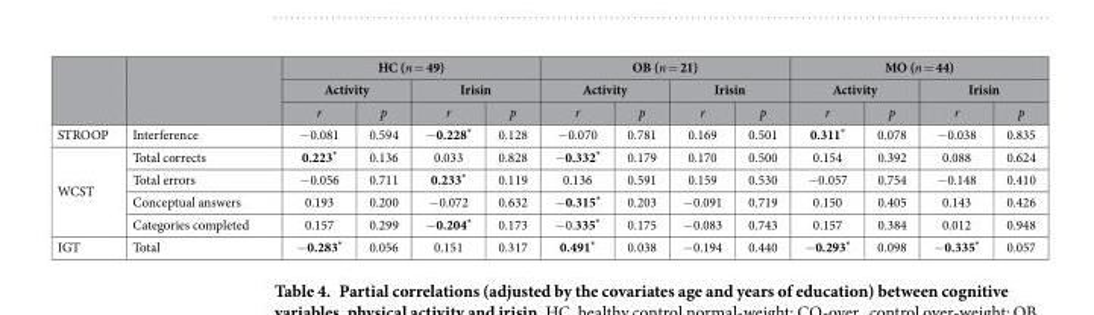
<table><thead><tr><td rowspan="3"></td><td rowspan="3"></td><td colspan="4">HC (n = 49)</td><td colspan="4">OB (n = 21)</td><td colspan="4">MO (n = 44)</td></tr><tr><td colspan="2">Activity</td><td colspan="2">Irisin</td><td colspan="2">Activity</td><td colspan="2">Irisin</td><td colspan="2">Activity</td><td colspan="2">Irisin</td></tr><tr><td>r</td><td>p</td><td>r</td><td>p</td><td>r</td><td>p</td><td>r</td><td>p</td><td>r</td><td>p</td><td>r</td><td>p</td></tr></thead><tbody><tr><td>STROOP</td><td>Interference</td><td>− 0.081</td><td>0.594</td><td>− 0.228*</td><td>0.128</td><td>− 0.070</td><td>0.781</td><td>0.169</td><td>0.501</td><td>0.311*</td><td>0.078</td><td>− 0.038</td><td>0.835</td></tr><tr><td rowspan="4">WCST</td><td>Total corrects</td><td>0.223*</td><td>0.136</td><td>0.033</td><td>0.828</td><td>− 0.332*</td><td>0.179</td><td>0.170</td><td>0.500</td><td>0.154</td><td>0.392</td><td>0.088</td><td>0.624</td></tr><tr><td>Total errors</td><td>− 0.056</td><td>0.711</td><td>0.233*</td><td>0.119</td><td>0.136</td><td>0.591</td><td>0.159</td><td>0.530</td><td>− 0.057</td><td>0.754</td><td>− 0.148</td><td>0.410</td></tr><tr><td>Conceptual answers</td><td>0.193</td><td>0.200</td><td>− 0.072</td><td>0.632</td><td>− 0.315*</td><td>0.203</td><td>− 0.091</td><td>0.719</td><td>0.150</td><td>0.405</td><td>0.143</td><td>0.426</td></tr><tr><td>Categories completed</td><td>0.157</td><td>0.299</td><td>− 0.204*</td><td>0.173</td><td>− 0.335*</td><td>0.175</td><td>− 0.083</td><td>0.743</td><td>0.157</td><td>0.384</td><td>0.012</td><td>0.948</td></tr><tr><td>IGT</td><td>Total</td><td>− 0.283*</td><td>0.056</td><td>0.151</td><td>0.317</td><td>0.491*</td><td>0.038</td><td>− 0.194</td><td>0.440</td><td>− 0.293*</td><td>0.098</td><td>− 0.335*</td><td>0.057</td></tr></tbody></table>